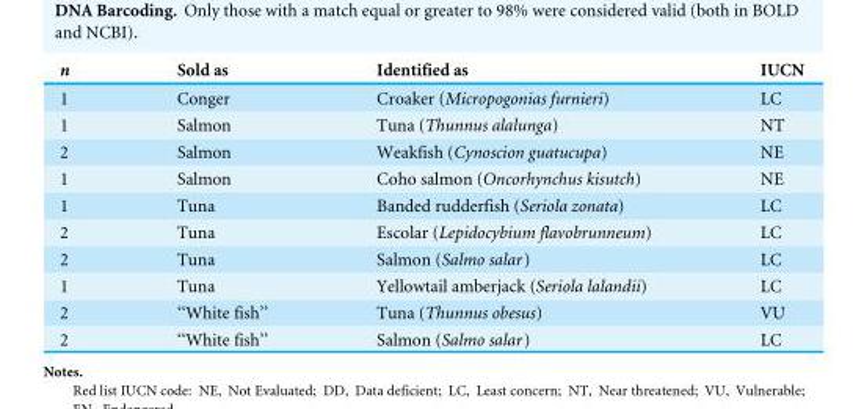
<table><thead><tr><td>n</td><td>Sold as</td><td>Identified as</td><td>IUCN</td></tr></thead><tbody><tr><td>1</td><td>Conger</td><td>Croaker (Micropogonias furnieri)</td><td>LC</td></tr><tr><td>1</td><td>Salmon</td><td>Tuna (Thunnus alalunga)</td><td>NT</td></tr><tr><td>2</td><td>Salmon</td><td>Weakfish (Cynoscion guatucupa)</td><td>NE</td></tr><tr><td>1</td><td>Salmon</td><td>Coho salmon (Oncorhynchus kisutch)</td><td>NE</td></tr><tr><td>1</td><td>Tuna</td><td>Banded rudderfish (Seriola zonata)</td><td>LC</td></tr><tr><td>2</td><td>Tuna</td><td>Escolar (Lepidocybium flavobrunneum)</td><td>LC</td></tr><tr><td>2</td><td>Tuna</td><td>Salmon (Salmo salar)</td><td>LC</td></tr><tr><td>1</td><td>Tuna</td><td>Yellowtail amberjack (Seriola lalandii)</td><td>LC</td></tr><tr><td>2</td><td>‘‘White fish’’</td><td>Tuna (Thunnus obesus)</td><td>VU</td></tr><tr><td>2</td><td>‘‘White fish’’</td><td>Salmon (Salmo salar)</td><td>LC</td></tr></tbody></table>